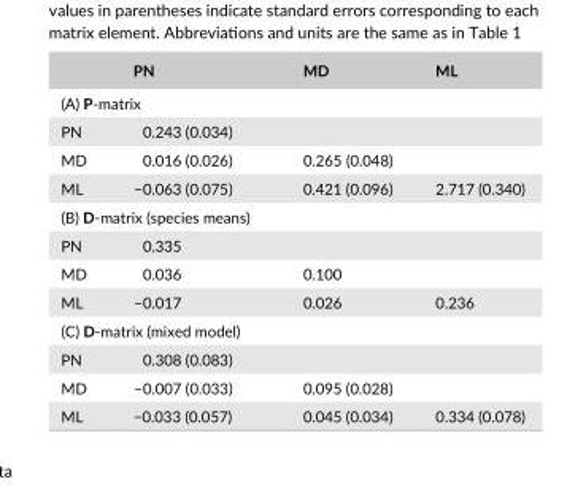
<table><thead><tr><td></td><td>PN</td><td>MD</td><td>ML</td></tr></thead><tbody><tr><td colspan="4">(A) P- matrix</td></tr><tr><td>PN</td><td>0.243 (0.034)</td><td></td><td></td></tr><tr><td>MD</td><td>0.016 (0.026)</td><td>0.265 (0.048)</td><td></td></tr><tr><td>ML</td><td>−0.063 (0.075)</td><td>0.421 (0.096)</td><td>2.717 (0.340)</td></tr><tr><td colspan="4">(B) D- matrix (species means)</td></tr><tr><td>PN</td><td>0.335</td><td></td><td></td></tr><tr><td>MD</td><td>0.036</td><td>0.100</td><td></td></tr><tr><td>ML</td><td>−0.017</td><td>0.026</td><td>0.236</td></tr><tr><td colspan="4">(C) D- matrix (mixed model)</td></tr><tr><td>PN</td><td>0.308 (0.083)</td><td></td><td></td></tr><tr><td>MD</td><td>−0.007 (0.033)</td><td>0.095 (0.028)</td><td></td></tr><tr><td>ML</td><td>−0.033 (0.057)</td><td>0.045 (0.034)</td><td>0.334 (0.078)</td></tr></tbody></table>